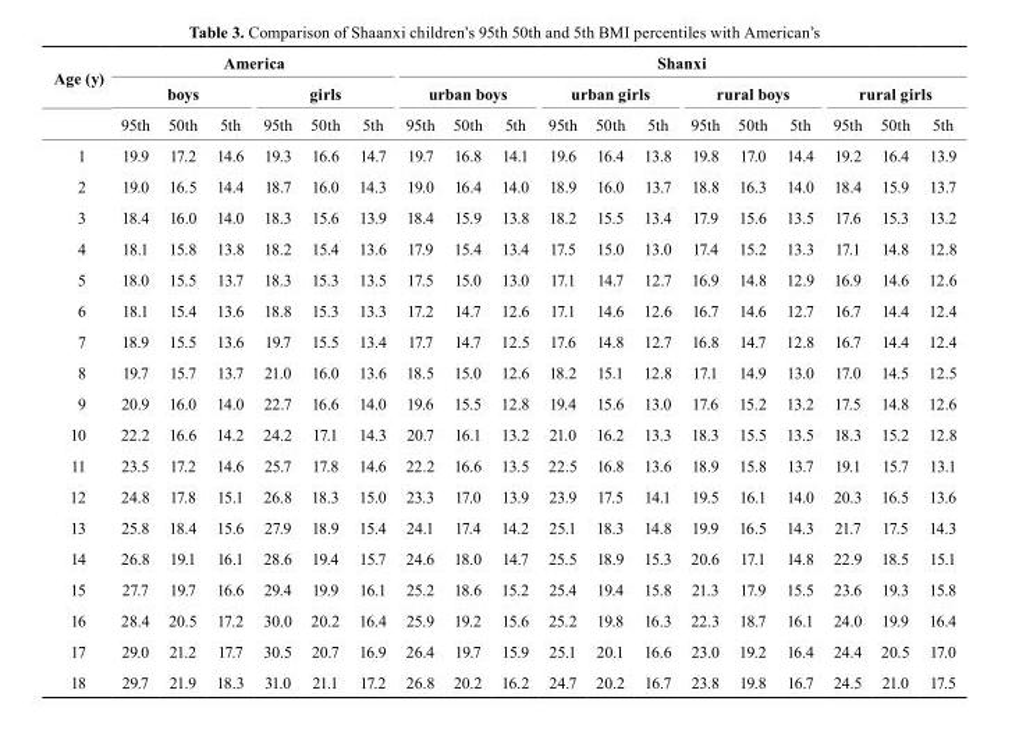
<table><thead><tr><td rowspan="3">Age (y)</td><td colspan="6">America</td><td colspan="12">shanxi</td></tr><tr><td colspan="3">boys</td><td colspan="3">girls</td><td colspan="3">urban boys</td><td colspan="3">urban girls</td><td colspan="3">rural boys</td><td colspan="3">rural girls</td></tr><tr><td>95th</td><td>50th</td><td>5th</td><td>95th</td><td>50th</td><td>5th</td><td>95th</td><td>50th</td><td>5th</td><td>95th</td><td>50th</td><td>5th</td><td>95th</td><td>50th</td><td>5th</td><td>95th</td><td>50th</td><td>5th</td></tr></thead><tbody><tr><td>1</td><td>19.9</td><td>17.2</td><td>14.6</td><td>19.3</td><td>16.6</td><td>14.7</td><td>19.7</td><td>16.8</td><td>14.1</td><td>19.6</td><td>16.4</td><td>13.8</td><td>19.8</td><td>17.0</td><td>14.4</td><td>19.2</td><td>16.4</td><td>13.9</td></tr><tr><td>2</td><td>19.0</td><td>16.5</td><td>14.4</td><td>18.7</td><td>16.0</td><td>14.3</td><td>19.0</td><td>16.4</td><td>14.0</td><td>18.9</td><td>16.0</td><td>13.7</td><td>18.8</td><td>16.3</td><td>14.0</td><td>18.4</td><td>15.9</td><td>13.7</td></tr><tr><td>3</td><td>18.4</td><td>16.0</td><td>14.0</td><td>18.3</td><td>15.6</td><td>13.9</td><td>18.4</td><td>15.9</td><td>13.8</td><td>18.2</td><td>15.5</td><td>13.4</td><td>17.9</td><td>15.6</td><td>13.5</td><td>17.6</td><td>15.3</td><td>13.2</td></tr><tr><td>4</td><td>18.1</td><td>15.8</td><td>13.8</td><td>18.2</td><td>15.4</td><td>13.6</td><td>17.9</td><td>15.4</td><td>13.4</td><td>17.5</td><td>15.0</td><td>13.0</td><td>17.4</td><td>15.2</td><td>13.3</td><td>17.1</td><td>14.8</td><td>12.8</td></tr><tr><td>5</td><td>18.0</td><td>15.5</td><td>13.7</td><td>18.3</td><td>15.3</td><td>13.5</td><td>17.5</td><td>15.0</td><td>13.0</td><td>17.1</td><td>14.7</td><td>12.7</td><td>16.9</td><td>14.8</td><td>12.9</td><td>16.9</td><td>14.6</td><td>12.6</td></tr><tr><td>6</td><td>18.1</td><td>15.4</td><td>13.6</td><td>18.8</td><td>15.3</td><td>13.3</td><td>17.2</td><td>14.7</td><td>12.6</td><td>17.1</td><td>14.6</td><td>12.6</td><td>16.7</td><td>14.6</td><td>12.7</td><td>16.7</td><td>14.4</td><td>12.4</td></tr><tr><td>7</td><td>18.9</td><td>15.5</td><td>13.6</td><td>19.7</td><td>15.5</td><td>13.4</td><td>17.7</td><td>14.7</td><td>12.5</td><td>17.6</td><td>14.8</td><td>12.7</td><td>16.8</td><td>14.7</td><td>12.8</td><td>16.7</td><td>14.4</td><td>12.4</td></tr><tr><td>8</td><td>19.7</td><td>15.7</td><td>13.7</td><td>21.0</td><td>16.0</td><td>13.6</td><td>18.5</td><td>15.0</td><td>12.6</td><td>18.2</td><td>15.1</td><td>12.8</td><td>17.1</td><td>14.9</td><td>13.0</td><td>17.0</td><td>14.5</td><td>12.5</td></tr><tr><td>9</td><td>20.9</td><td>16.0</td><td>14.0</td><td>22.7</td><td>16.6</td><td>14.0</td><td>19.6</td><td>15.5</td><td>12.8</td><td>19.4</td><td>15.6</td><td>13.0</td><td>17.6</td><td>15.2</td><td>13.2</td><td>17.5</td><td>14.8</td><td>12.6</td></tr><tr><td>10</td><td>22.2</td><td>16.6</td><td>14.2</td><td>24.2</td><td>17.1</td><td>14.3</td><td>20.7</td><td>16.1</td><td>13.2</td><td>21.0</td><td>16.2</td><td>13.3</td><td>18.3</td><td>15.5</td><td>13.5</td><td>18.3</td><td>15.2</td><td>12.8</td></tr><tr><td>11</td><td>23.5</td><td>17.2</td><td>14.6</td><td>25.7</td><td>17.8</td><td>14.6</td><td>22.2</td><td>16.6</td><td>13.5</td><td>22.5</td><td>16.8</td><td>13.6</td><td>18.9</td><td>15.8</td><td>13.7</td><td>19.1</td><td>15.7</td><td>13.1</td></tr><tr><td>12</td><td>24.8</td><td>17.8</td><td>15.1</td><td>26.8</td><td>18.3</td><td>15.0</td><td>23.3</td><td>17.0</td><td>13.9</td><td>23.9</td><td>17.5</td><td>14.1</td><td>19.5</td><td>16.1</td><td>14.0</td><td>20.3</td><td>16.5</td><td>13.6</td></tr><tr><td>13</td><td>25.8</td><td>18.4</td><td>15.6</td><td>27.9</td><td>18.9</td><td>15.4</td><td>24.1</td><td>17.4</td><td>14.2</td><td>25.1</td><td>18.3</td><td>14.8</td><td>19.9</td><td>16.5</td><td>14.3</td><td>21.7</td><td>17.5</td><td>14.3</td></tr><tr><td>14</td><td>26.8</td><td>19.1</td><td>16.1</td><td>28.6</td><td>19.4</td><td>15.7</td><td>24.6</td><td>18.0</td><td>14.7</td><td>25.5</td><td>18.9</td><td>15.3</td><td>20.6</td><td>17.1</td><td>14.8</td><td>22.9</td><td>18.5</td><td>15.1</td></tr><tr><td>15</td><td>27.7</td><td>19.7</td><td>16.6</td><td>29.4</td><td>19.9</td><td>16.1</td><td>25.2</td><td>18.6</td><td>15.2</td><td>25.4</td><td>19.4</td><td>15.8</td><td>21.3</td><td>17.9</td><td>15.5</td><td>23.6</td><td>19.3</td><td>15.8</td></tr><tr><td>16</td><td>28.4</td><td>20.5</td><td>17.2</td><td>30.0</td><td>20.2</td><td>16.4</td><td>25.9</td><td>19.2</td><td>15.6</td><td>25.2</td><td>19.8</td><td>16.3</td><td>22.3</td><td>18.7</td><td>16.1</td><td>24.0</td><td>19.9</td><td>16.4</td></tr><tr><td>17</td><td>29.0</td><td>21.2</td><td>17.7</td><td>30.5</td><td>20.7</td><td>16.9</td><td>26.4</td><td>19.7</td><td>15.9</td><td>25.1</td><td>20.1</td><td>16.6</td><td>23.0</td><td>19.2</td><td>16.4</td><td>24.4</td><td>20.5</td><td>17.0</td></tr><tr><td>18</td><td>29.7</td><td>21.9</td><td>18.3</td><td>31.0</td><td>21.1</td><td>17.2</td><td>26.8</td><td>20.2</td><td>16.2</td><td>24.7</td><td>20.2</td><td>16.7</td><td>23.8</td><td>19.8</td><td>16.7</td><td>24.5</td><td>21.0</td><td>17.5</td></tr></tbody></table>